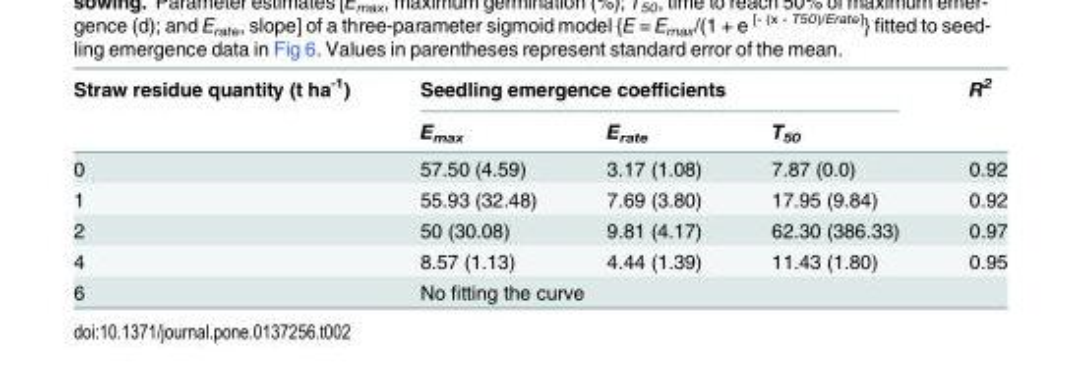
<table><thead><tr><td rowspan="2">Straw residue quantity (t ha<sup>-1</sup>)</td><td colspan="3">Seedling emergence coefficients</td><td rowspan="2">R<sup>2</sup></td></tr><tr><td>E<sub>max</sub></td><td>E<sub>rate</sub></td><td>T<sub>50</sub></td></tr></thead><tbody><tr><td>0</td><td>57.50 (4.59)</td><td>3.17 (1.08)</td><td>7.87 (0.0)</td><td>0.92</td></tr><tr><td>1</td><td>55.93 (32.48)</td><td>7.69 (3.80)</td><td>17.95 (9.84)</td><td>0.92</td></tr><tr><td>2</td><td>50 (30.08)</td><td>9.81 (4.17)</td><td>62.30 (386.33)</td><td>0.97</td></tr><tr><td>4</td><td>8.57 (1.13)</td><td>4.44 (1.39)</td><td>11.43 (1.80)</td><td>0.95</td></tr><tr><td>6</td><td colspan="4">No fitting the curve</td></tr></tbody></table>